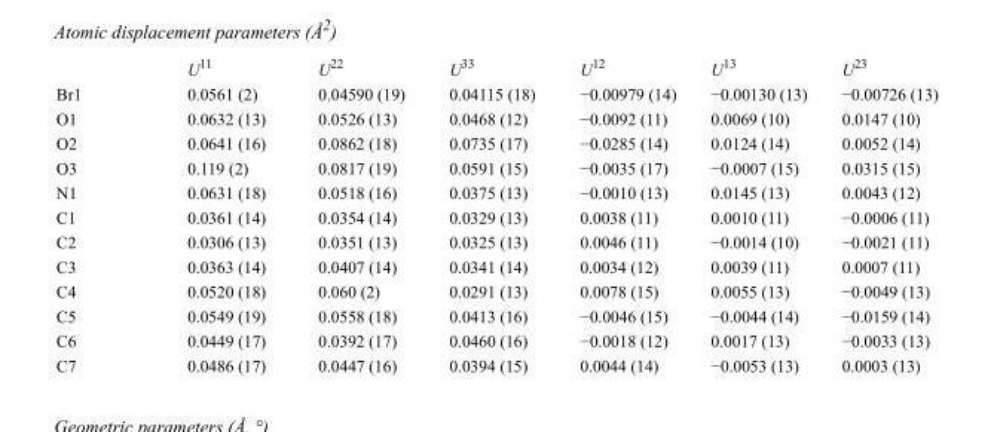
<table><thead><tr><td></td><td>U<sup>11</sup></td><td>U<sup>22</sup></td><td>U<sup>33</sup></td><td>U<sup>12</sup></td><td>U<sup>13</sup></td><td>U<sup>23</sup></td></tr></thead><tbody><tr><td>Br1</td><td>0.0561 (2)</td><td>0.04590 (19)</td><td>0.04115 (18)</td><td>−0.00979 (14)</td><td>−0.00130 (13)</td><td>−0.00726 (13)</td></tr><tr><td>O1</td><td>0.0632 (13)</td><td>0.0526 (13)</td><td>0.0468 (12)</td><td>−0.0092 (11)</td><td>0.0069 (10)</td><td>0.0147 (10)</td></tr><tr><td>O2</td><td>0.0641 (16)</td><td>0.0862 (18)</td><td>0.0735 (17)</td><td>−0.0285 (14)</td><td>0.0124 (14)</td><td>0.0052 (14)</td></tr><tr><td>O3</td><td>0.119 (2)</td><td>0.0817 (19)</td><td>0.0591 (15)</td><td>−0.0035 (17)</td><td>−0.0007 (15)</td><td>0.0315 (15)</td></tr><tr><td>N1</td><td>0.0631 (18)</td><td>0.0518 (16)</td><td>0.0375 (13)</td><td>−0.0010 (13)</td><td>0.0145 (13)</td><td>0.0043 (12)</td></tr><tr><td>C1</td><td>0.0361 (14)</td><td>0.0354 (14)</td><td>0.0329 (13)</td><td>0.0038 (11)</td><td>0.0010 (11)</td><td>−0.0006 (11)</td></tr><tr><td>C2</td><td>0.0306 (13)</td><td>0.0351 (13)</td><td>0.0325 (13)</td><td>0.0046 (11)</td><td>−0.0014 (10)</td><td>−0.0021 (11)</td></tr><tr><td>C3</td><td>0.0363 (14)</td><td>0.0407 (14)</td><td>0.0341 (14)</td><td>0.0034 (12)</td><td>0.0039 (11)</td><td>0.0007 (11)</td></tr><tr><td>C4</td><td>0.0520 (18)</td><td>0.060 (2)</td><td>0.0291 (13)</td><td>0.0078 (15)</td><td>0.0055 (13)</td><td>−0.0049 (13)</td></tr><tr><td>C5</td><td>0.0549 (19)</td><td>0.0558 (18)</td><td>0.0413 (16)</td><td>−0.0046 (15)</td><td>−0.0044 (14)</td><td>−0.0159 (14)</td></tr><tr><td>C6</td><td>0.0449 (17)</td><td>0.0392 (17)</td><td>0.0460 (16)</td><td>−0.0018 (12)</td><td>0.0017 (13)</td><td>−0.0033 (13)</td></tr><tr><td>C7</td><td>0.0486 (17)</td><td>0.0447 (16)</td><td>0.0394 (15)</td><td>0.0044 (14)</td><td>−0.0053 (13)</td><td>0.0003 (13)</td></tr></tbody></table>